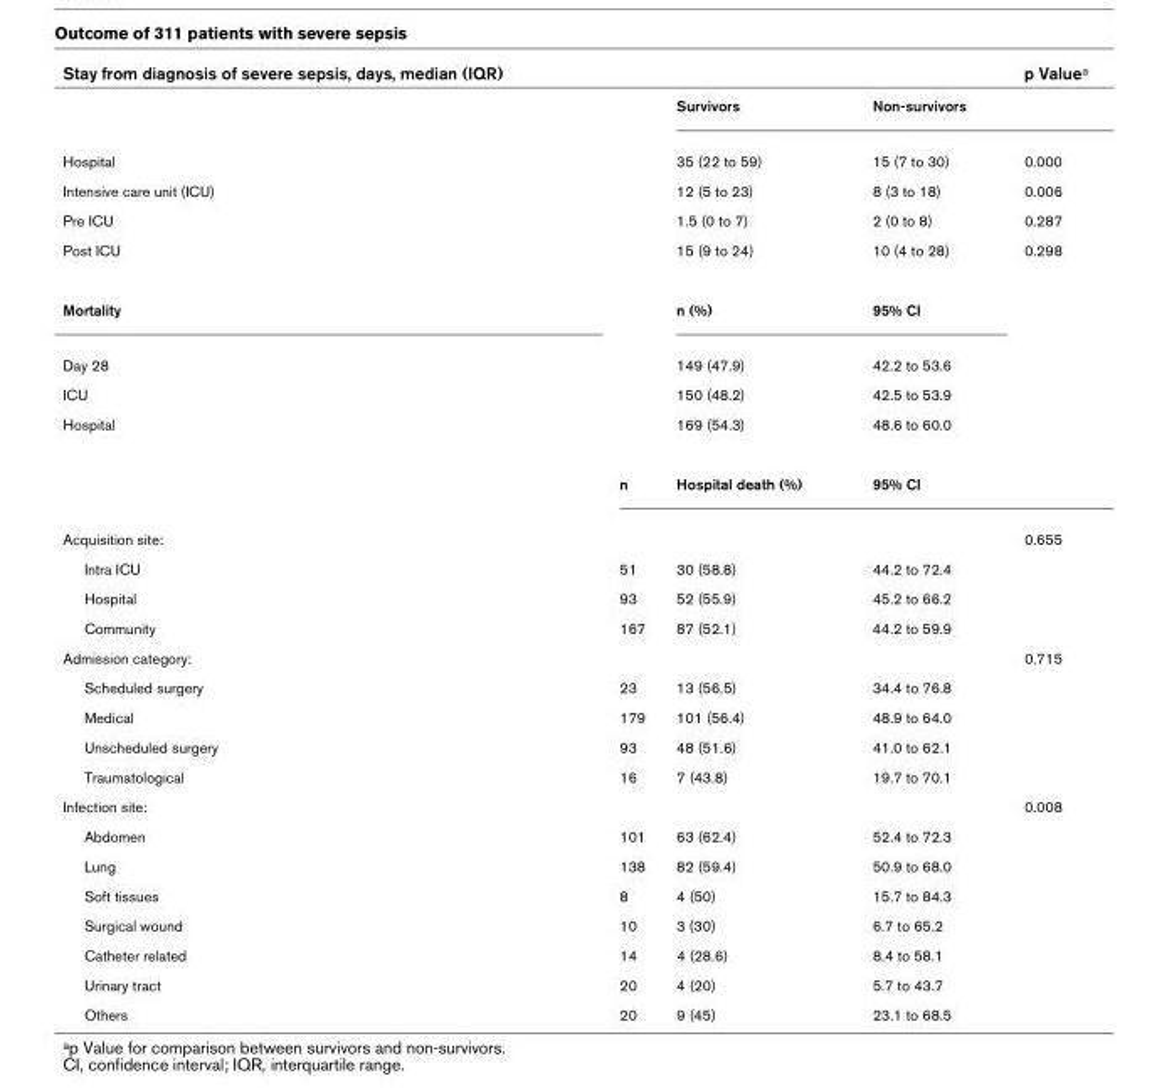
<table><thead><tr><td>Stay from diagnosis of severe sepsis, days, median (IQR)</td><td></td><td></td><td></td><td>p Value<sup>a</sup></td></tr></thead><tbody><tr><td></td><td></td><td>Survivors</td><td>Non-survivors</td><td></td></tr><tr><td>Hospital</td><td></td><td>35 (22 to 59)</td><td>15 (7 to 30)</td><td>0.000</td></tr><tr><td>Intensive care unit (ICU)</td><td></td><td>12 (5 to 23)</td><td>8 (3 to 18)</td><td>0.006</td></tr><tr><td>Pre ICU</td><td></td><td>1.5 (0 to 7)</td><td>2 (0 to 8)</td><td>0.287</td></tr><tr><td>Post ICU</td><td></td><td>15 (9 to 24)</td><td>10 (4 to 28)</td><td>0.298</td></tr><tr><td>Mortality</td><td></td><td>n (%)</td><td>95% CI</td><td></td></tr><tr><td>Day 28</td><td></td><td>149 (47.9)</td><td>42.2 to 53.6</td><td></td></tr><tr><td>ICU</td><td></td><td>150 (48.2)</td><td>42.5 to 53.9</td><td></td></tr><tr><td rowspan="2">Hospital</td><td></td><td>169 (54.3)</td><td>48.6 to 60.0</td><td></td></tr><tr><td>n</td><td>Hospital death (%)</td><td>95% CI</td><td></td></tr><tr><td>Acquisition site:</td><td></td><td></td><td></td><td>0.655</td></tr><tr><td>Intra ICU</td><td>51</td><td>30 (58.8)</td><td>44.2 to 72.4</td><td></td></tr><tr><td>Hospital</td><td>93</td><td>52 (55.9)</td><td>45.2 to 66.2</td><td></td></tr><tr><td>Community</td><td>167</td><td>87 (52.1)</td><td>44.2 to 59.9</td><td></td></tr><tr><td>Admission category:</td><td></td><td></td><td></td><td>0.715</td></tr><tr><td>Scheduled surgery</td><td>23</td><td>13 (56.5)</td><td>34.4 to 76.8</td><td></td></tr><tr><td>Medical</td><td>179</td><td>101 (56.4)</td><td>48.9 to 64.0</td><td></td></tr><tr><td>Unscheduled surgery</td><td>93</td><td>48 (51.6)</td><td>41.0 to 62.1</td><td></td></tr><tr><td>Traumatological</td><td>16</td><td>7 (43.8)</td><td>19.7 to 70.1</td><td></td></tr><tr><td>Infection site:</td><td></td><td></td><td></td><td>0.008</td></tr><tr><td>Abdomen</td><td>101</td><td>63 (62.4)</td><td>52.4 to 72.3</td><td></td></tr><tr><td>Lung</td><td>138</td><td>82 (59.4)</td><td>50.9 to 68.0</td><td></td></tr><tr><td>Soft tissues</td><td>8</td><td>4 (50)</td><td>15.7 to 84.3</td><td></td></tr><tr><td>Surgical wound</td><td>10</td><td>3 (30)</td><td>6.7 to 65.2</td><td></td></tr><tr><td>Catheter related</td><td>14</td><td>4 (28.6)</td><td>8.4 to 58.1</td><td></td></tr><tr><td>Urinary tract</td><td>20</td><td>4 (20)</td><td>5.7 to 43.7</td><td></td></tr><tr><td>Others</td><td>20</td><td>9 (45)</td><td>23.1 to 68.5</td><td></td></tr></tbody></table>